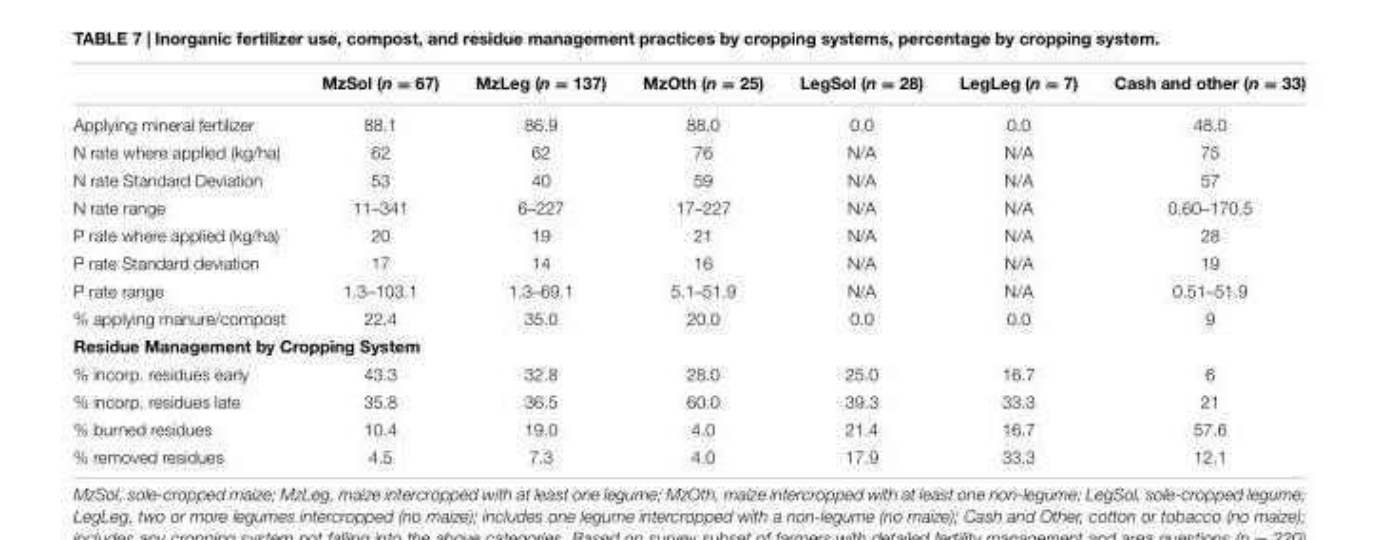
<table><thead><tr><td></td><td>MzSol (n = 67)</td><td>MzLeg (n = 137)</td><td>MzOth (n = 25)</td><td>LegSol (n = 28)</td><td>LegLeg (n = 7)</td><td>Cash and other (n = 33)</td></tr></thead><tbody><tr><td>Applying mineral fertilizer</td><td>88.1</td><td>86.9</td><td>88.0</td><td>0.0</td><td>0.0</td><td>48.0</td></tr><tr><td>N rate where applied (kg/ha)</td><td>62</td><td>62</td><td>76</td><td>N/A</td><td>N/A</td><td>75</td></tr><tr><td>N rate Standard Deviation</td><td>53</td><td>40</td><td>59</td><td>N/A</td><td>N/A</td><td>57</td></tr><tr><td>N rate range</td><td>11–341</td><td>6–227</td><td>17–227</td><td>N/A</td><td>N/A</td><td>0.60–170.5</td></tr><tr><td>P rate where applied (kg/ha)</td><td>20</td><td>19</td><td>21</td><td>N/A</td><td>N/A</td><td>28</td></tr><tr><td>P rate Standard deviation</td><td>17</td><td>14</td><td>16</td><td>N/A</td><td>N/A</td><td>19</td></tr><tr><td>P rate range</td><td>1.3–103.1</td><td>1.3–69.1</td><td>5.1–51.9</td><td>N/A</td><td>N/A</td><td>0.51–51.9</td></tr><tr><td>% applying manure/compost</td><td>22.4</td><td>35.0</td><td>20.0</td><td>0.0</td><td>0.0</td><td>9</td></tr><tr><td colspan="7">Residue Management by Cropping System</td></tr><tr><td>% incorp. residues early</td><td>43.3</td><td>32.8</td><td>28.0</td><td>25.0</td><td>16.7</td><td>6</td></tr><tr><td>% incorp. residues late</td><td>35.8</td><td>36.5</td><td>60.0</td><td>39.3</td><td>33.3</td><td>21</td></tr><tr><td>% burned residues</td><td>10.4</td><td>19.0</td><td>4.0</td><td>21.4</td><td>16.7</td><td>57.6</td></tr><tr><td>% removed residues</td><td>4.5</td><td>7.3</td><td>4.0</td><td>17.9</td><td>33.3</td><td>12.1</td></tr></tbody></table>